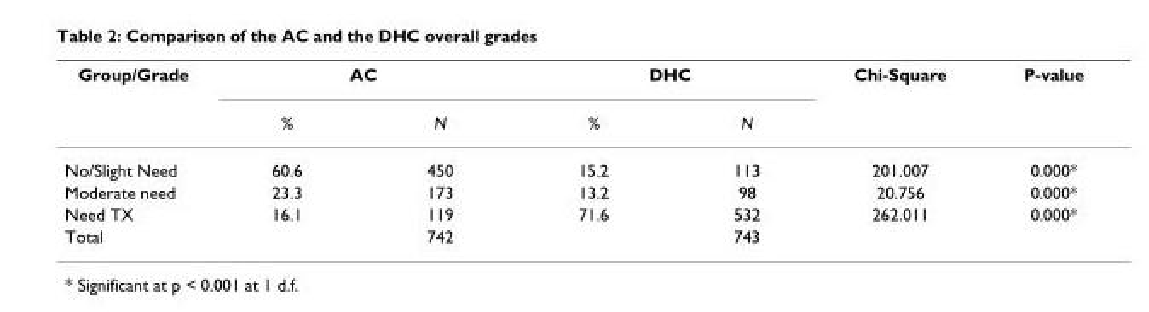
<table><thead><tr><td rowspan="2">Group/Grade</td><td colspan="2">AC</td><td colspan="2">DHC</td><td rowspan="2">Chi-Square</td><td rowspan="2">P-value</td></tr><tr><td>%</td><td>N</td><td>%</td><td>N</td></tr></thead><tbody><tr><td>No/Slight Need</td><td>60.6</td><td>450</td><td>15.2</td><td>113</td><td>201.007</td><td>0.000*</td></tr><tr><td>Moderate need</td><td>23.3</td><td>173</td><td>13.2</td><td>98</td><td>20.756</td><td>0.000*</td></tr><tr><td>Need TX</td><td>16.1</td><td>119</td><td>71.6</td><td>532</td><td>262.011</td><td>0.000*</td></tr><tr><td>Total</td><td></td><td>742</td><td></td><td>743</td><td></td><td></td></tr></tbody></table>